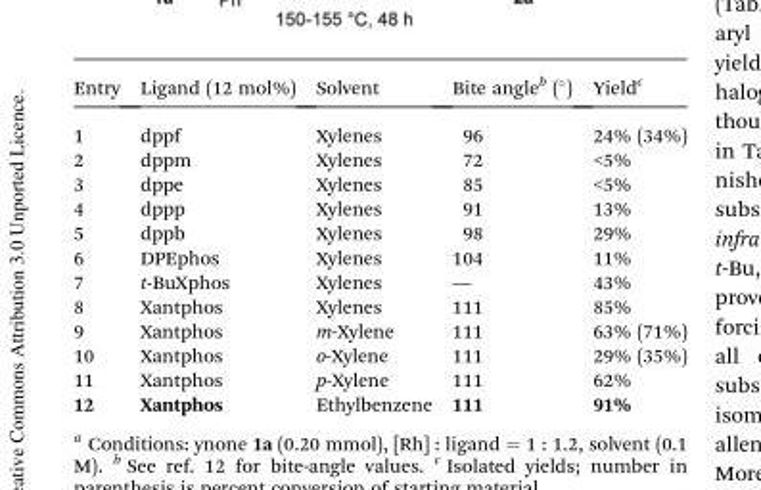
<table><thead><tr><td>Entry</td><td>Ligand (12 mol%)</td><td>Solvent</td><td>Bite angle<sup>b</sup> (°)</td><td>Yield<sup>c</sup></td></tr></thead><tbody><tr><td>1</td><td>dppf</td><td>Xylenes</td><td>96</td><td>24% (34%)</td></tr><tr><td>2</td><td>dppm</td><td>Xylenes</td><td>72</td><td>&lt;5%</td></tr><tr><td>3</td><td>dppe</td><td>Xylenes</td><td>85</td><td>&lt;5%</td></tr><tr><td>4</td><td>dppp</td><td>Xylenes</td><td>91</td><td>13%</td></tr><tr><td>5</td><td>dppb</td><td>Xylenes</td><td>98</td><td>29%</td></tr><tr><td>6</td><td>DPEphos</td><td>Xylenes</td><td>104</td><td>11%</td></tr><tr><td>7</td><td>t-BuXphos</td><td>Xylenes</td><td>—</td><td>43%</td></tr><tr><td>8</td><td>Xantphos</td><td>Xylenes</td><td>111</td><td>85%</td></tr><tr><td>9</td><td>Xantphos</td><td>m-Xylene</td><td>111</td><td>63% (71%)</td></tr><tr><td>10</td><td>Xantphos</td><td>o-Xylene</td><td>111</td><td>29% (35%)</td></tr><tr><td>11</td><td>Xantphos</td><td>p-Xylene</td><td>111</td><td>62%</td></tr><tr><td>12</td><td>Xantphos</td><td>Ethylbenzene</td><td>111</td><td>91%</td></tr></tbody></table>